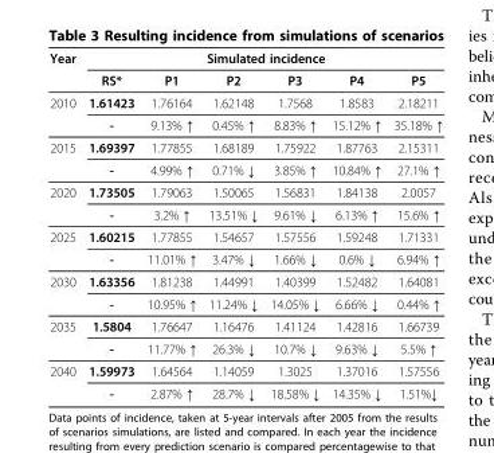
<table><thead><tr><td rowspan="2">Year</td><td colspan="6">Simulated incidence</td></tr><tr><td>RS*</td><td>P1</td><td>P2</td><td>P3</td><td>P4</td><td>P5</td></tr></thead><tbody><tr><td rowspan="2">2010</td><td>1.61423</td><td>1.76164</td><td>1.62148</td><td>1.7568</td><td>1.8583</td><td>2.18211</td></tr><tr><td>-</td><td>9.13% ↑</td><td>0.45% ↑</td><td>8.83% ↑</td><td>15.12% ↑</td><td>35.18% ↑</td></tr><tr><td rowspan="2">2015</td><td>1.69397</td><td>1.77855</td><td>1.68189</td><td>1.75922</td><td>1.87763</td><td>2.15311</td></tr><tr><td>-</td><td>4.99% ↑</td><td>0.71% ↓</td><td>3.85% ↑</td><td>10.84% ↑</td><td>27.1% ↑</td></tr><tr><td rowspan="2">2020</td><td>1.73505</td><td>1.79063</td><td>1.50065</td><td>1.56831</td><td>1.84138</td><td>2.0057</td></tr><tr><td>-</td><td>3.2% ↑</td><td>13.51% ↓</td><td>9.61% ↓</td><td>6.13% ↑</td><td>15.6% ↑</td></tr><tr><td rowspan="2">2025</td><td>1.60215</td><td>1.77855</td><td>1.54657</td><td>1.57556</td><td>1.59248</td><td>1.71331</td></tr><tr><td>-</td><td>11.01% ↑</td><td>3.47% ↓</td><td>1.66% ↓</td><td>0.6% ↓</td><td>6.94% ↑</td></tr><tr><td rowspan="2">2030</td><td>1.63356</td><td>1.81238</td><td>1.44991</td><td>1.40399</td><td>1.52482</td><td>1.64081</td></tr><tr><td>-</td><td>10.95% ↑</td><td>11.24% ↓</td><td>14.05% ↓</td><td>6.66% ↓</td><td>0.44% ↑</td></tr><tr><td rowspan="2">2035</td><td>1.5804</td><td>1.76647</td><td>1.16476</td><td>1.41124</td><td>1.42816</td><td>1.66739</td></tr><tr><td>-</td><td>11.77% ↑</td><td>26.3% ↓</td><td>10.7% ↓</td><td>9.63% ↓</td><td>5.5% ↑</td></tr><tr><td rowspan="2">2040</td><td>1.59973</td><td>1.64564</td><td>1.14059</td><td>1.3025</td><td>1.37016</td><td>1.57556</td></tr><tr><td>-</td><td>2.87% ↑</td><td>28.7% ↓</td><td>18.58% ↓</td><td>14.35% ↓</td><td>1.51%↓</td></tr></tbody></table>